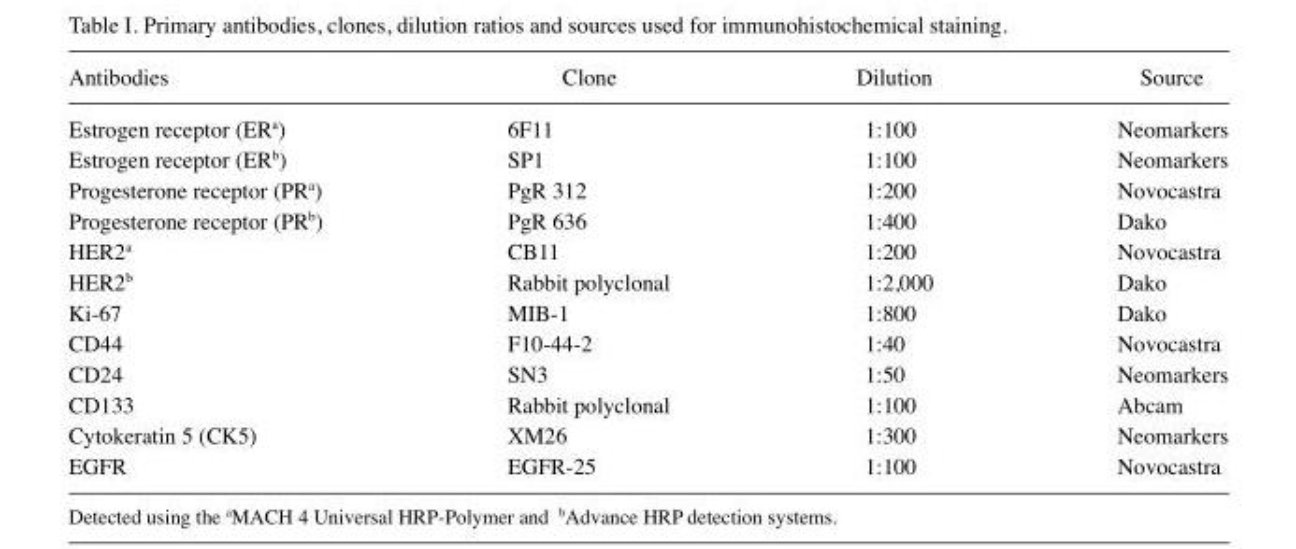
<table><thead><tr><td>Antibodies</td><td>Clone</td><td>Dilution</td><td>Source</td></tr></thead><tbody><tr><td>Estrogen receptor (ER<sup>a</sup>)</td><td>6F11</td><td>1:100</td><td>Neomarkers</td></tr><tr><td>Estrogen receptor (ER<sup>b</sup>)</td><td>SP1</td><td>1:100</td><td>Neomarkers</td></tr><tr><td>Progesterone receptor (PR<sup>a</sup>)</td><td>PgR 312</td><td>1:200</td><td>Novocastra</td></tr><tr><td>Progesterone receptor (PR<sup>b</sup>)</td><td>PgR 636</td><td>1:400</td><td>Dako</td></tr><tr><td>HER2<sup>a</sup></td><td>CB11</td><td>1:200</td><td>Novocastra</td></tr><tr><td>HER2<sup>b</sup></td><td>Rabbit polyclonal</td><td>1:2,000</td><td>Dako</td></tr><tr><td>Ki-67</td><td>MIB-1</td><td>1:800</td><td>Dako</td></tr><tr><td>CD44</td><td>F10-44-2</td><td>1:40</td><td>Novocastra</td></tr><tr><td>CD24</td><td>SN3</td><td>1:50</td><td>Neomarkers</td></tr><tr><td>CD133</td><td>Rabbit polyclonal</td><td>1:100</td><td>Abcam</td></tr><tr><td>Cytokeratin 5 (CK5)</td><td>XM26</td><td>1:300</td><td>Neomarkers</td></tr><tr><td>EGFR</td><td>EGFR-25</td><td>1:100</td><td>Novocastra</td></tr></tbody></table>